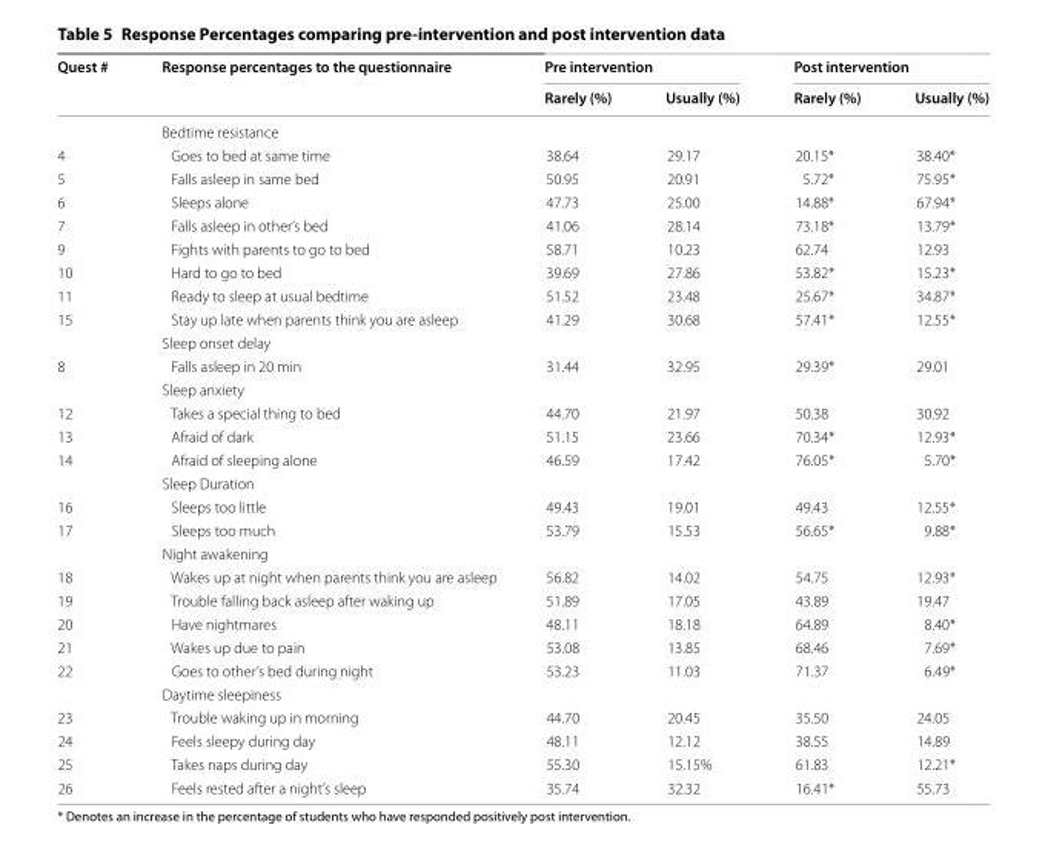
<table><thead><tr><td rowspan="2">Quest #</td><td rowspan="2">Response percentages to the questionnaire</td><td colspan="2">Pre intervention</td><td colspan="2">Post intervention</td></tr><tr><td>Rarely (%)</td><td>Usually (%)</td><td>Rarely (%)</td><td>Usually (%)</td></tr></thead><tbody><tr><td></td><td colspan="5">Bedtime resistance</td></tr><tr><td>4</td><td>Goes to bed at same time</td><td>38.64</td><td>29.17</td><td>20.15*</td><td>38.40*</td></tr><tr><td>5</td><td>Falls asleep in same bed</td><td>50.95</td><td>20.91</td><td>5.72*</td><td>75.95*</td></tr><tr><td>6</td><td>Sleeps alone</td><td>47.73</td><td>25.00</td><td>14.88*</td><td>67.94*</td></tr><tr><td>7</td><td>Falls asleep in other’s bed</td><td>41.06</td><td>28.14</td><td>73.18*</td><td>13.79*</td></tr><tr><td>9</td><td>Fights with parents to go to bed</td><td>58.71</td><td>10.23</td><td>62.74</td><td>12.93</td></tr><tr><td>10</td><td>Hard to go to bed</td><td>39.69</td><td>27.86</td><td>53.82*</td><td>15.23*</td></tr><tr><td>11</td><td>Ready to sleep at usual bedtime</td><td>51.52</td><td>23.48</td><td>25.67*</td><td>34.87*</td></tr><tr><td rowspan="2">15</td><td>Stay up late when parents think you are asleep</td><td>41.29</td><td>30.68</td><td>57.41*</td><td>12.55*</td></tr><tr><td colspan="5">Sleep onset delay</td></tr><tr><td rowspan="2">8</td><td>Falls asleep in 20 min</td><td>31.44</td><td>32.95</td><td>29.39*</td><td>29.01</td></tr><tr><td colspan="5">Sleep anxiety</td></tr><tr><td>12</td><td>Takes a special thing to bed</td><td>44.70</td><td>21.97</td><td>50.38</td><td>30.92</td></tr><tr><td>13</td><td>Afraid of dark</td><td>51.15</td><td>23.66</td><td>70.34*</td><td>12.93*</td></tr><tr><td rowspan="2">14</td><td>Afraid of sleeping alone</td><td>46.59</td><td>17.42</td><td>76.05*</td><td>5.70*</td></tr><tr><td colspan="5">Sleep Duration</td></tr><tr><td>16</td><td>Sleeps too little</td><td>49.43</td><td>19.01</td><td>49.43</td><td>12.55*</td></tr><tr><td rowspan="2">17</td><td>Sleeps too much</td><td>53.79</td><td>15.53</td><td>56.65*</td><td>9.88*</td></tr><tr><td colspan="5">Night awakening</td></tr><tr><td>18</td><td>Wakes up at night when parents think you are asleep</td><td>56.82</td><td>14.02</td><td>54.75</td><td>12.93*</td></tr><tr><td>19</td><td>Trouble falling back asleep after waking up</td><td>51.89</td><td>17.05</td><td>43.89</td><td>19.47</td></tr><tr><td>20</td><td>Have nightmares</td><td>48.11</td><td>18.18</td><td>64.89</td><td>8.40*</td></tr><tr><td>21</td><td>Wakes up due to pain</td><td>53.08</td><td>13.85</td><td>68.46</td><td>7.69*</td></tr><tr><td rowspan="2">22</td><td>Goes to other’s bed during night</td><td>53.23</td><td>11.03</td><td>71.37</td><td>6.49*</td></tr><tr><td colspan="5">Daytime sleepiness</td></tr><tr><td>23</td><td>Trouble waking up in morning</td><td>44.70</td><td>20.45</td><td>35.50</td><td>24.05</td></tr><tr><td>24</td><td>Feels sleepy during day</td><td>48.11</td><td>12.12</td><td>38.55</td><td>14.89</td></tr><tr><td>25</td><td>Takes naps during day</td><td>55.30</td><td>15.15%</td><td>61.83</td><td>12.21*</td></tr><tr><td>26</td><td>Feels rested after a night’s sleep</td><td>35.74</td><td>32.32</td><td>16.41*</td><td>55.73</td></tr></tbody></table>